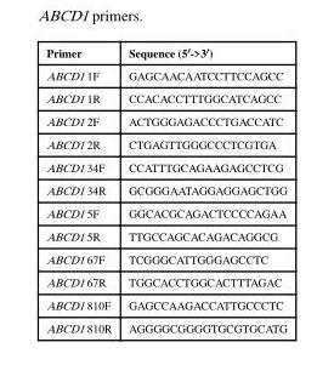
<table><thead><tr><td>Primer</td><td>Sequence (5′-&gt;3′)</td></tr></thead><tbody><tr><td>ABCD1 1F</td><td>GAGCAACAATCCTTCCAGCC</td></tr><tr><td>ABCD1 1R</td><td>CCACACCTTTGGCATCAGCC</td></tr><tr><td>ABCD1 2F</td><td>ACTGGGAGACCCTGACCATC</td></tr><tr><td>ABCD1 2R</td><td>CTGAGTTGGGCCCTCGTGA</td></tr><tr><td>ABCD1 34F</td><td>CCATTTGCAGAAGAGCCTCG</td></tr><tr><td>ABCD1 34R</td><td>GCGGGAATAGGAGGAGCTGG</td></tr><tr><td>ABCD1 5F</td><td>GGCACGCAGACTCCCCAGAA</td></tr><tr><td>ABCD1 5R</td><td>TTGCCAGCACAGACAGGCG</td></tr><tr><td>ABCD1 67F</td><td>TCGGGCATTGGGAGCCTC</td></tr><tr><td>ABCD1 67R</td><td>TGGCACCTGGCACTTTAGAC</td></tr><tr><td>ABCD1 810F</td><td>GAGCCAAGACCATTGCCCTC</td></tr><tr><td>ABCD1 810R</td><td>AGGGGCGGGGTGCGTGCATG</td></tr></tbody></table>